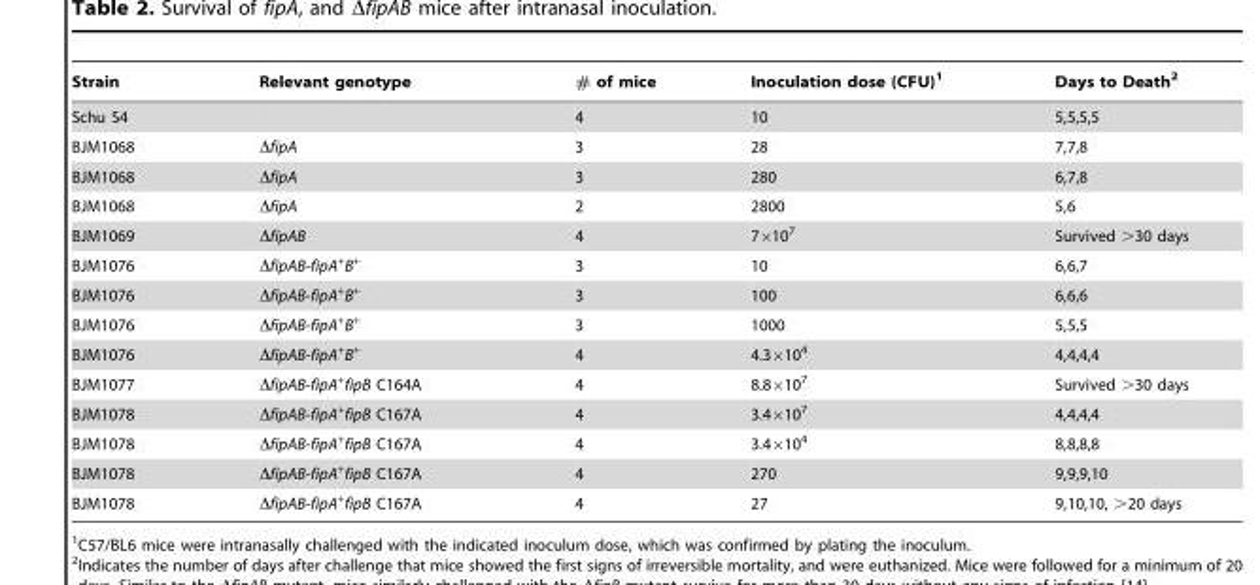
<table><thead><tr><td>Strain</td><td>Relevant genotype</td><td># of mice</td><td>Inoculation dose (CFU)<sup>1</sup></td><td>Days to Death<sup>2</sup></td></tr></thead><tbody><tr><td>Schu S4</td><td></td><td>4</td><td>10</td><td>5,5,5,5</td></tr><tr><td>BJM1068</td><td>ΔfipA</td><td>3</td><td>28</td><td>7,7,8</td></tr><tr><td>BJM1068</td><td>ΔfipA</td><td>3</td><td>280</td><td>6,7,8</td></tr><tr><td>BJM1068</td><td>ΔfipA</td><td>2</td><td>2800</td><td>5,6</td></tr><tr><td>BJM1069</td><td>ΔfipAB</td><td>4</td><td>7×10<sup>7</sup></td><td>Survived &gt;30 days</td></tr><tr><td>BJM1076</td><td>ΔfipAB-fipA<sup>+</sup>B<sup>+</sup></td><td>3</td><td>10</td><td>6,6,7</td></tr><tr><td>BJM1076</td><td>ΔfipAB-fipA<sup>+</sup>B<sup>+</sup></td><td>3</td><td>100</td><td>6,6,6</td></tr><tr><td>BJM1076</td><td>ΔfipAB-fipA<sup>+</sup>B<sup>+</sup></td><td>3</td><td>1000</td><td>5,5,5</td></tr><tr><td>BJM1076</td><td>ΔfipAB-fipA<sup>+</sup>B<sup>+</sup></td><td>4</td><td>4.3×10<sup>4</sup></td><td>4,4,4,4</td></tr><tr><td>BJM1077</td><td>ΔfipAB-fipA<sup>+</sup>fipB C164A</td><td>4</td><td>8.8×10<sup>7</sup></td><td>Survived &gt;30 days</td></tr><tr><td>BJM1078</td><td>ΔfipAB-fipA<sup>+</sup>fipB C167A</td><td>4</td><td>3.4×10<sup>7</sup></td><td>4,4,4,4</td></tr><tr><td>BJM1078</td><td>ΔfipAB-fipA<sup>+</sup>fipB C167A</td><td>4</td><td>3.4×10<sup>4</sup></td><td>8,8,8,8</td></tr><tr><td>BJM1078</td><td>ΔfipAB-fipA<sup>+</sup>fipB C167A</td><td>4</td><td>270</td><td>9,9,9,10</td></tr><tr><td>BJM1078</td><td>ΔfipAB-fipA<sup>+</sup>fipB C167A</td><td>4</td><td>27</td><td>9,10,10, &gt;20 days</td></tr></tbody></table>